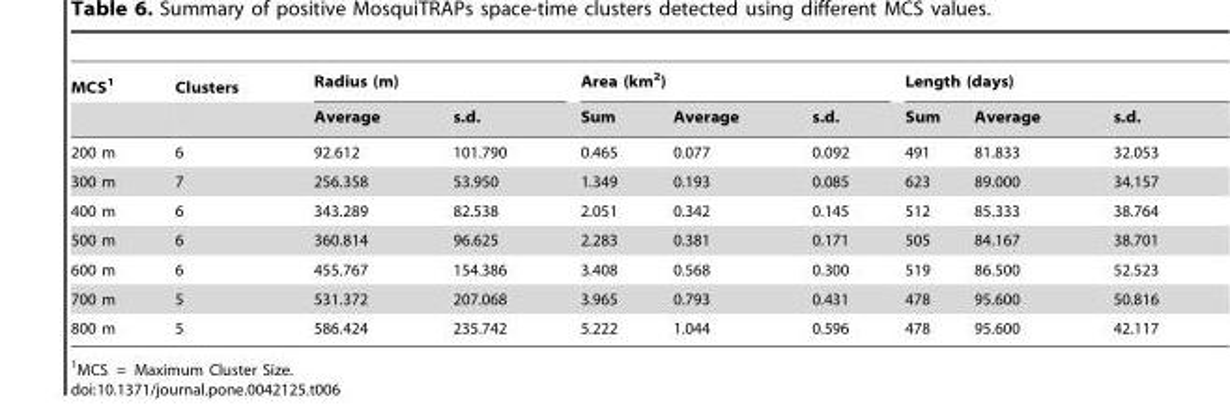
<table><thead><tr><td rowspan="2">MCS<sup>1</sup></td><td rowspan="2">Clusters</td><td colspan="2">Radius (m)</td><td colspan="3">Area (km<sup>2</sup>)</td><td colspan="3">Length (days)</td></tr><tr><td>Average</td><td>s.d.</td><td>Sum</td><td>Average</td><td>s.d.</td><td>Sum</td><td>Average</td><td>s.d.</td></tr></thead><tbody><tr><td>200 m</td><td>6</td><td>92.612</td><td>101.790</td><td>0.465</td><td>0.077</td><td>0.092</td><td>491</td><td>81.833</td><td>32.053</td></tr><tr><td>300 m</td><td>7</td><td>256.358</td><td>53.950</td><td>1.349</td><td>0.193</td><td>0.085</td><td>623</td><td>89.000</td><td>34.157</td></tr><tr><td>400 m</td><td>6</td><td>343.289</td><td>82.538</td><td>2.051</td><td>0.342</td><td>0.145</td><td>512</td><td>85.333</td><td>38.764</td></tr><tr><td>500 m</td><td>6</td><td>360.814</td><td>96.625</td><td>2.283</td><td>0.381</td><td>0.171</td><td>505</td><td>84.167</td><td>38.701</td></tr><tr><td>600 m</td><td>6</td><td>455.767</td><td>154.386</td><td>3.408</td><td>0.568</td><td>0.300</td><td>519</td><td>86.500</td><td>52.523</td></tr><tr><td>700 m</td><td>5</td><td>531.372</td><td>207.068</td><td>3.965</td><td>0.793</td><td>0.431</td><td>478</td><td>95.600</td><td>50.816</td></tr><tr><td>800 m</td><td>5</td><td>586.424</td><td>235.742</td><td>5.222</td><td>1.044</td><td>0.596</td><td>478</td><td>95.600</td><td>42.117</td></tr></tbody></table>